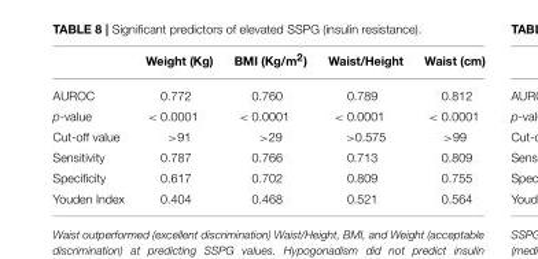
<table><thead><tr><td></td><td>Weight (Kg)</td><td>BMI (Kg/m<sup>2</sup>)</td><td>Waist/Height</td><td>Waist (cm)</td></tr></thead><tbody><tr><td>AUROC</td><td>0.772</td><td>0.760</td><td>0.789</td><td>0.812</td></tr><tr><td>p-value</td><td>&lt; 0.0001</td><td>&lt; 0.0001</td><td>&lt; 0.0001</td><td>&lt; 0.0001</td></tr><tr><td>Cut-off value</td><td>&gt;91</td><td>&gt;29</td><td>&gt;0.575</td><td>&gt;99</td></tr><tr><td>Sensitivity</td><td>0.787</td><td>0.766</td><td>0.713</td><td>0.809</td></tr><tr><td>Specificity</td><td>0.617</td><td>0.702</td><td>0.809</td><td>0.755</td></tr><tr><td>Youden Index</td><td>0.404</td><td>0.468</td><td>0.521</td><td>0.564</td></tr></tbody></table>